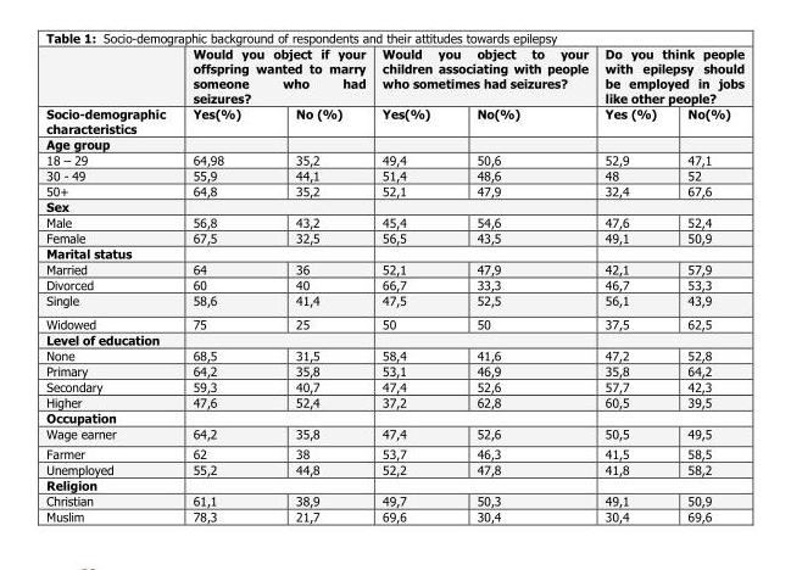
<table><thead><tr><td rowspan="2">Socio-demographic characteristics</td><td colspan="2">Would you object if your offspring wanted to marry someone who had seizures?</td><td colspan="2">Would you object to your children associating with people who sometimes had seizures?</td><td colspan="2">Do you think people with epilepsy should be employed in jobs like other people?</td></tr><tr><td>Yes(%)</td><td>No (%)</td><td>Yes(%)</td><td>No(%)</td><td>Yes (%)</td><td>No(%)</td></tr></thead><tbody><tr><td colspan="7">Age group</td></tr><tr><td>18 – 29</td><td>64,98</td><td>35,2</td><td>49,4</td><td>50,6</td><td>52,9</td><td>47,1</td></tr><tr><td>30 - 49</td><td>55,9</td><td>44,1</td><td>51,4</td><td>48,6</td><td>48</td><td>52</td></tr><tr><td>50+</td><td>64,8</td><td>35,2</td><td>52,1</td><td>47,9</td><td>32,4</td><td>67,6</td></tr><tr><td colspan="7">Sex</td></tr><tr><td>Male</td><td>56,8</td><td>43,2</td><td>45,4</td><td>54,6</td><td>47,6</td><td>52,4</td></tr><tr><td>Female</td><td>67,5</td><td>32,5</td><td>56,5</td><td>43,5</td><td>49,1</td><td>50,9</td></tr><tr><td colspan="7">Marital status</td></tr><tr><td>Married</td><td>64</td><td>36</td><td>52,1</td><td>47,9</td><td>42,1</td><td>57,9</td></tr><tr><td>Divorced</td><td>60</td><td>40</td><td>66,7</td><td>33,3</td><td>46,7</td><td>53,3</td></tr><tr><td>Single</td><td>58,6</td><td>41,4</td><td>47,5</td><td>52,5</td><td>56,1</td><td>43,9</td></tr><tr><td>Widowed</td><td>75</td><td>25</td><td>50</td><td>50</td><td>37,5</td><td>62,5</td></tr><tr><td colspan="7">Level of education</td></tr><tr><td>None</td><td>68,5</td><td>31,5</td><td>58,4</td><td>41,6</td><td>47,2</td><td>52,8</td></tr><tr><td>Primary</td><td>64,2</td><td>35,8</td><td>53,1</td><td>46,9</td><td>35,8</td><td>64,2</td></tr><tr><td>Secondary</td><td>59,3</td><td>40,7</td><td>47,4</td><td>52,6</td><td>57,7</td><td>42,3</td></tr><tr><td>Higher</td><td>47,6</td><td>52,4</td><td>37,2</td><td>62,8</td><td>60,5</td><td>39,5</td></tr><tr><td colspan="7">Occupation</td></tr><tr><td>Wage earner</td><td>64,2</td><td>35,8</td><td>47,4</td><td>52,6</td><td>50,5</td><td>49,5</td></tr><tr><td>Farmer</td><td>62</td><td>38</td><td>53,7</td><td>46,3</td><td>41,5</td><td>58,5</td></tr><tr><td>Unemployed</td><td>55,2</td><td>44,8</td><td>52,2</td><td>47,8</td><td>41,8</td><td>58,2</td></tr><tr><td colspan="7">Religion</td></tr><tr><td>Christian</td><td>61,1</td><td>38,9</td><td>49,7</td><td>50,3</td><td>49,1</td><td>50,9</td></tr><tr><td>Muslim</td><td>78,3</td><td>21,7</td><td>69,6</td><td>30,4</td><td>30,4</td><td>69,6</td></tr></tbody></table>